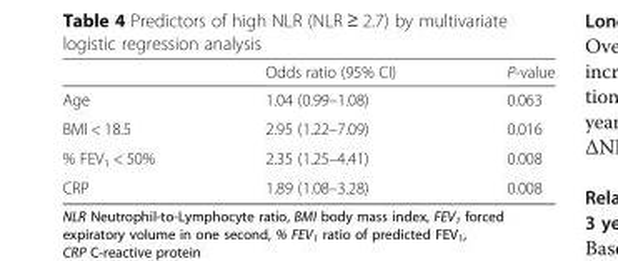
<table><thead><tr><td></td><td>Odds ratio (95% CI)</td><td>P-value</td></tr></thead><tbody><tr><td>Age</td><td>1.04 (0.99–1.08)</td><td>0.063</td></tr><tr><td>BMI &lt; 18.5</td><td>2.95 (1.22–7.09)</td><td>0.016</td></tr><tr><td>% FEV<sub>1</sub> &lt; 50%</td><td>2.35 (1.25–4.41)</td><td>0.008</td></tr><tr><td>CRP</td><td>1.89 (1.08–3.28)</td><td>0.008</td></tr></tbody></table>